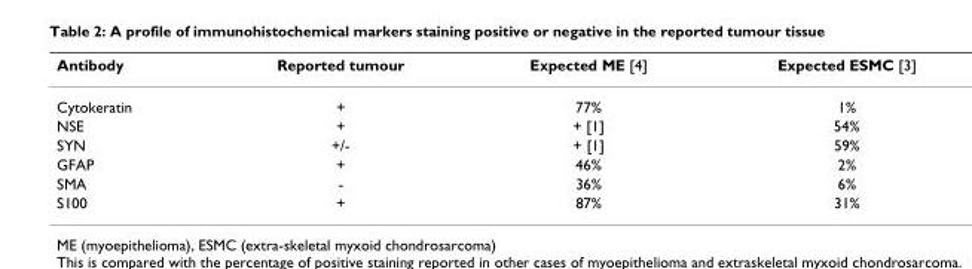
<table><thead><tr><td>Antibody</td><td>Reported tumour</td><td>Expected ME [4]</td><td>Expected ESMC [3]</td></tr></thead><tbody><tr><td>Cytokeratin</td><td>+</td><td>77%</td><td>1%</td></tr><tr><td>NSE</td><td>+</td><td>+ [1]</td><td>54%</td></tr><tr><td>SYN</td><td>+/-</td><td>+ [1]</td><td>59%</td></tr><tr><td>GFAP</td><td>+</td><td>46%</td><td>2%</td></tr><tr><td>SMA</td><td>-</td><td>36%</td><td>6%</td></tr><tr><td>S100</td><td>+</td><td>87%</td><td>31%</td></tr></tbody></table>